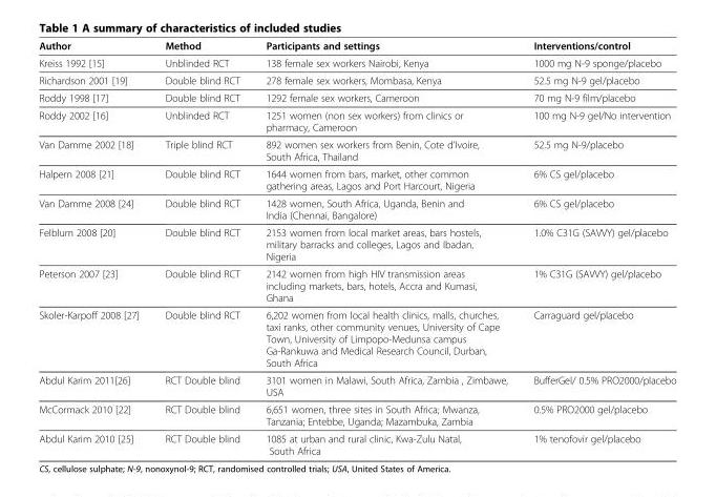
<table><thead><tr><td>Author</td><td>Method</td><td>Participants and settings</td><td>Interventions/control</td></tr></thead><tbody><tr><td>Kreiss 1992 [15]</td><td>Unblinded RCT</td><td>138 female sex workers Nairobi, Kenya</td><td>1000 mg N-9 sponge/placebo</td></tr><tr><td>Richardson 2001 [19]</td><td>Double blind RCT</td><td>278 female sex workers, Mombasa, Kenya</td><td>52.5 mg N-9 gel/placebo</td></tr><tr><td>Roddy 1998 [17]</td><td>Double blind RCT</td><td>1292 female sex workers, Cameroon</td><td>70 mg N-9 film/placebo</td></tr><tr><td>Roddy 2002 [16]</td><td>Unblinded RCT</td><td>1251 women (non sex workers) from clinics or pharmacy, Cameroon</td><td>100 mg N-9 gel/No intervention</td></tr><tr><td>Van Damme 2002 [18]</td><td>Triple blind RCT</td><td>892 women sex workers from Benin, Cote d’Ivoire, South Africa, Thailand</td><td>52.5 mg N-9/placebo</td></tr><tr><td>Halpern 2008 [21]</td><td>Double blind RCT</td><td>1644 women from bars, market, other common gathering areas, Lagos and Port Harcourt, Nigeria</td><td>6% CS gel/placebo</td></tr><tr><td>Van Damme 2008 [24]</td><td>Double blind RCT</td><td>1428 women, South Africa, Uganda, Benin and India (Chennai, Bangalore)</td><td>6% CS gel/placebo</td></tr><tr><td>Felblum 2008 [20]</td><td>Double blind RCT</td><td>2153 women from local market areas, bars hostels, military barracks and colleges, Lagos and Ibadan, Nigeria</td><td>1.0% C31G (SAVVY) gel/placebo</td></tr><tr><td>Peterson 2007 [23]</td><td>Double blind RCT</td><td>2142 women from high HIV transmission areas including markets, bars, hotels, Accra and Kumasi, Ghana</td><td>1% C31G (SAVVY) gel/placebo</td></tr><tr><td>Skoler-Karpoff 2008 [27]</td><td>Double blind RCT</td><td>6,202 women from local health clinics, malls, churches, taxi ranks, other community venues, University of Cape Town, University of Limpopo-Medunsa campus Ga-Rankuwa and Medical Research Council, Durban, South Africa</td><td>Carraguard gel/placebo</td></tr><tr><td>Abdul Karim 2011[26]</td><td>RCT Double blind</td><td>3101 women in Malawi, South Africa, Zambia , Zimbawe, USA</td><td>BufferGel/ 0.5% PRO2000/placebo</td></tr><tr><td>McCormack 2010 [22]</td><td>RCT Double blind</td><td>6,651 women, three sites in South Africa; Mwanza, Tanzania; Entebbe, Uganda; Mazambuka, Zambia</td><td>0.5% PRO2000 gel/placebo</td></tr><tr><td>Abdul Karim 2010 [25]</td><td>RCT Double blind</td><td>1085 at urban and rural clinic, Kwa-Zulu Natal, South Africa</td><td>1% tenofovir gel/placebo</td></tr></tbody></table>